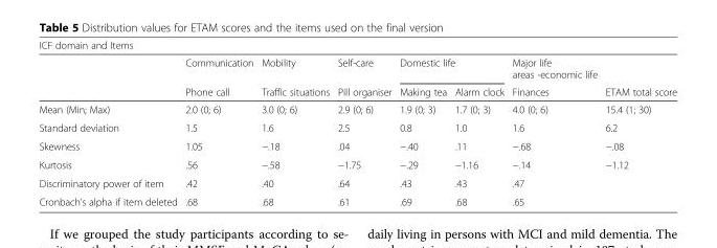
<table><thead><tr><td colspan="8">ICF domain and Items</td></tr><tr><td rowspan="2"></td><td rowspan="2">Communication Phone call</td><td rowspan="2">Mobility Traffic situations</td><td rowspan="2">Self-care Pill organiser</td><td colspan="2">Domestic life</td><td rowspan="2">Major life areas -economic life Finances</td><td rowspan="2">ETAM total score</td></tr><tr><td>Making tea</td><td>Alarm clock</td></tr></thead><tbody><tr><td>Mean (Min; Max)</td><td>2.0 (0; 6)</td><td>3.0 (0; 6)</td><td>2.9 (0; 6)</td><td>1.9 (0; 3)</td><td>1.7 (0; 3)</td><td>4.0 (0; 6)</td><td>15.4 (1; 30)</td></tr><tr><td>Standard deviation</td><td>1.5</td><td>1.6</td><td>2.5</td><td>0.8</td><td>1.0</td><td>1.6</td><td>6.2</td></tr><tr><td>Skewness</td><td>1.05</td><td>−.18</td><td>.04</td><td>−.40</td><td>.11</td><td>−.68</td><td>−.08</td></tr><tr><td>Kurtosis</td><td>.56</td><td>−.58</td><td>−1.75</td><td>−.29</td><td>−1.16</td><td>−.14</td><td>−1.12</td></tr><tr><td>Discriminatory power of item</td><td>.42</td><td>.40</td><td>.64</td><td>.43</td><td>.43</td><td>.47</td><td></td></tr><tr><td>Cronbach’s alpha if item deleted</td><td>.68</td><td>.68</td><td>.61</td><td>.69</td><td>.68</td><td>.65</td><td></td></tr></tbody></table>